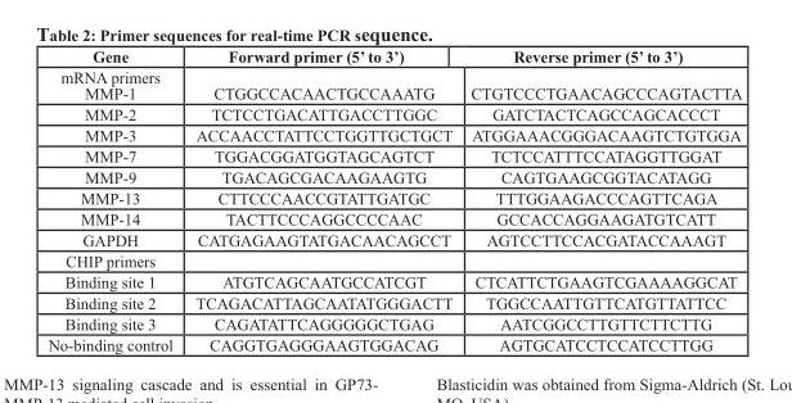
<table><thead><tr><td>Gene</td><td>Forward primer (5’ to 3’)</td><td>Reverse primer (5’ to 3’)</td></tr></thead><tbody><tr><td>mRNA primers MMP-1</td><td>CTGGCCACAACTGCCAAATG</td><td>CTGTCCCTGAACAGCCCAGTACTTA</td></tr><tr><td>MMP-2</td><td>TCTCCTGACATTGACCTTGGC</td><td>GATCTACTCAGCCAGCACCCT</td></tr><tr><td>MMP-3</td><td>ACCAACCTATTCCTGGTTGCTGCT</td><td>ATGGAAACGGGACAAGTCTGTGGA</td></tr><tr><td>MMP-7</td><td>TGGACGGATGGTAGCAGTCT</td><td>TCTCCATTTCCATAGGTTGGAT</td></tr><tr><td>MMP-9</td><td>TGACAGCGACAAGAAGTG</td><td>CAGTGAAGCGGTACATAGG</td></tr><tr><td>MMP-13</td><td>CTTCCCAACCGTATTGATGC</td><td>TTTGGAAGACCCAGTTCAGA</td></tr><tr><td>MMP-14</td><td>TACTTCCCAGGCCCCAAC</td><td>GCCACCAGGAAGATGTCATT</td></tr><tr><td>GAPDH</td><td>CATGAGAAGTATGACAACAGCCT</td><td>AGTCCTTCCACGATACCAAAGT</td></tr><tr><td colspan="3">CHIP primers</td></tr><tr><td>Binding site 1</td><td>ATGTCAGCAATGCCATCGT</td><td>CTCATTCTGAAGTCGAAAAGGCAT</td></tr><tr><td>Binding site 2</td><td>TCAGACATTAGCAATATGGGACTT</td><td>TGGCCAATTGTTCATGTTATTCC</td></tr><tr><td>Binding site 3</td><td>CAGATATTCAGGGGGCTGAG</td><td>AATCGGCCTTGTTCTTCTTG</td></tr><tr><td>No-binding control</td><td>CAGGTGAGGGAAGTGGACAG</td><td>AGTGCATCCTCCATCCTTGG</td></tr></tbody></table>